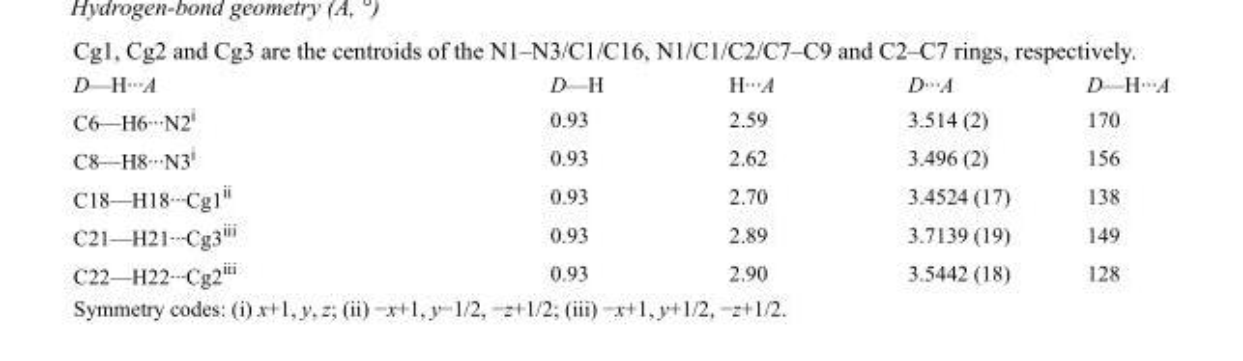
<table><tbody><tr><td>D—H···A</td><td>D—H</td><td>H···A</td><td>D···A</td><td>D—H···A</td></tr><tr><td>C6—H6···N2<sup>i</sup></td><td>0.93</td><td>2.59</td><td>3.514 (2)</td><td>170</td></tr><tr><td>C8—H8···N3<sup>i</sup></td><td>0.93</td><td>2.62</td><td>3.496 (2)</td><td>156</td></tr><tr><td>C18—H18···Cg1<sup>ii</sup></td><td>0.93</td><td>2.70</td><td>3.4524 (17)</td><td>138</td></tr><tr><td>C21—H21···Cg3<sup>iii</sup></td><td>0.93</td><td>2.89</td><td>3.7139 (19)</td><td>149</td></tr><tr><td>C22—H22···Cg2<sup>iii</sup></td><td>0.93</td><td>2.90</td><td>3.5442 (18)</td><td>128</td></tr></tbody></table>